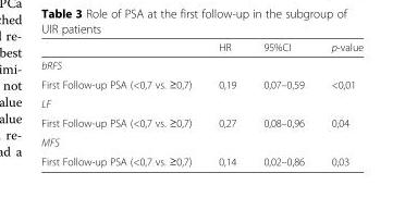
<table><thead><tr><td></td><td>HR</td><td>95%CI</td><td>p-value</td></tr></thead><tbody><tr><td colspan="4">bRFS</td></tr><tr><td>First Follow-up PSA (&lt;0,7 vs. ≥0,7)</td><td>0,19</td><td>0,07–0,59</td><td>&lt;0,01</td></tr><tr><td colspan="4">LF</td></tr><tr><td>First Follow-up PSA (&lt;0,7 vs. ≥0,7)</td><td>0,27</td><td>0,08–0,96</td><td>0,04</td></tr><tr><td colspan="4">MFS</td></tr><tr><td>First Follow-up PSA (&lt;0,7 vs. ≥0,7)</td><td>0,14</td><td>0,02–0,86</td><td>0,03</td></tr></tbody></table>